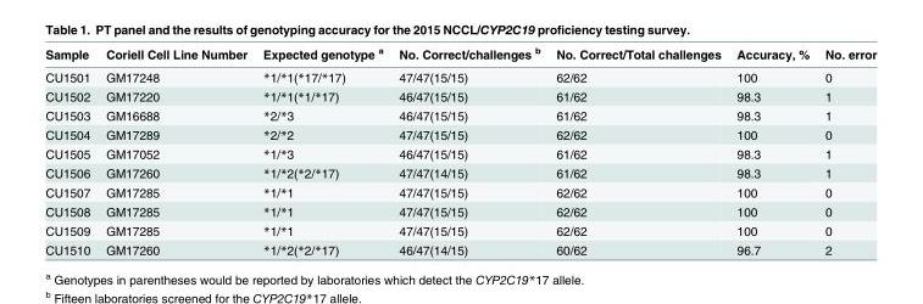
<table><thead><tr><td>Sample</td><td>Coriell Cell Line Number</td><td>Expected genotype <sup>a</sup></td><td>No. Correct/challenges <sup>b</sup></td><td>No. Correct/Total challenges</td><td>Accuracy, %</td><td>No. error</td></tr></thead><tbody><tr><td>CU1501</td><td>GM17248</td><td>*1/*1(*17/*17)</td><td>47/47(15/15)</td><td>62/62</td><td>100</td><td>0</td></tr><tr><td>CU1502</td><td>GM17220</td><td>*1/*1(*1/*17)</td><td>46/47(15/15)</td><td>61/62</td><td>98.3</td><td>1</td></tr><tr><td>CU1503</td><td>GM16688</td><td>*2/*3</td><td>46/47(15/15)</td><td>61/62</td><td>98.3</td><td>1</td></tr><tr><td>CU1504</td><td>GM17289</td><td>*2/*2</td><td>47/47(15/15)</td><td>62/62</td><td>100</td><td>0</td></tr><tr><td>CU1505</td><td>GM17052</td><td>*1/*3</td><td>46/47(15/15)</td><td>61/62</td><td>98.3</td><td>1</td></tr><tr><td>CU1506</td><td>GM17260</td><td>*1/*2(*2/*17)</td><td>47/47(14/15)</td><td>61/62</td><td>98.3</td><td>1</td></tr><tr><td>CU1507</td><td>GM17285</td><td>*1/*1</td><td>47/47(15/15)</td><td>62/62</td><td>100</td><td>0</td></tr><tr><td>CU1508</td><td>GM17285</td><td>*1/*1</td><td>47/47(15/15)</td><td>62/62</td><td>100</td><td>0</td></tr><tr><td>CU1509</td><td>GM17285</td><td>*1/*1</td><td>47/47(15/15)</td><td>62/62</td><td>100</td><td>0</td></tr><tr><td>CU1510</td><td>GM17260</td><td>*1/*2(*2/*17)</td><td>46/47(14/15)</td><td>60/62</td><td>96.7</td><td>2</td></tr></tbody></table>